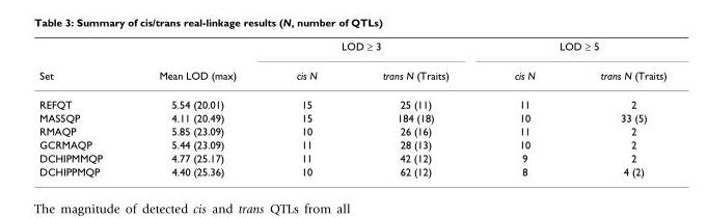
<table><thead><tr><td rowspan="2">Set</td><td rowspan="2">Mean LOD (max)</td><td colspan="2">LOD ≥ 3</td><td colspan="2">LOD ≥ 5</td></tr><tr><td>cis N</td><td>trans N (Traits)</td><td>cis N</td><td>trans N (Traits)</td></tr></thead><tbody><tr><td>REFQT</td><td>5.54 (20.01)</td><td>15</td><td>25 (11)</td><td>11</td><td>2</td></tr><tr><td>MAS5QP</td><td>4.11 (20.49)</td><td>15</td><td>184 (18)</td><td>10</td><td>33 (5)</td></tr><tr><td>RMAQP</td><td>5.85 (23.09)</td><td>10</td><td>26 (16)</td><td>11</td><td>2</td></tr><tr><td>GCRMAQP</td><td>5.44 (23.09)</td><td>11</td><td>28 (13)</td><td>10</td><td>2</td></tr><tr><td>DCHIPMMQP</td><td>4.77 (25.17)</td><td>11</td><td>42 (12)</td><td>9</td><td>2</td></tr><tr><td>DCHIPPMQP</td><td>4.40 (25.36)</td><td>10</td><td>62 (12)</td><td>8</td><td>4 (2)</td></tr></tbody></table>